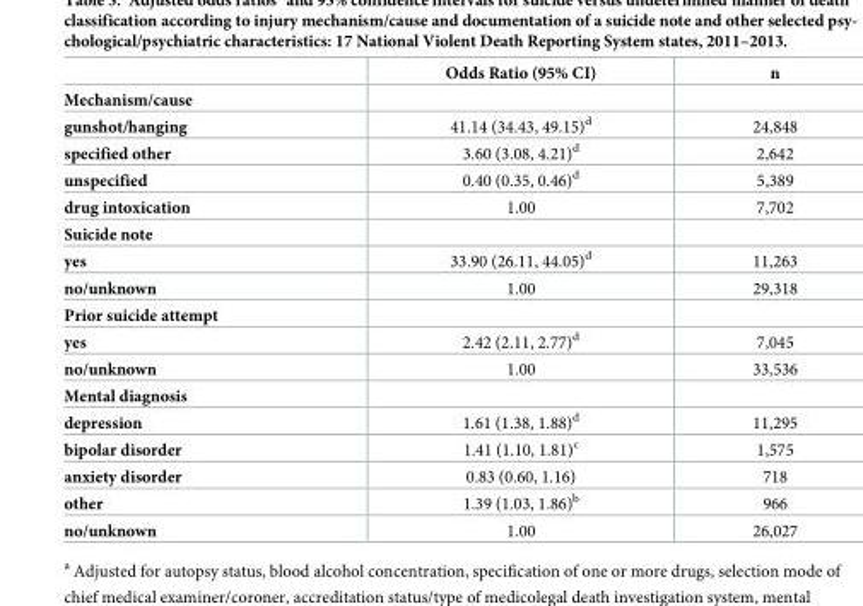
<table><thead><tr><td></td><td>Odds Ratio (95% CI)</td><td>n</td></tr></thead><tbody><tr><td colspan="3">Mechanism/cause</td></tr><tr><td>gunshot/hanging</td><td>41.14 (34.43, 49.15)<sup>d</sup></td><td>24,848</td></tr><tr><td>specified other</td><td>3.60 (3.08, 4.21)<sup>d</sup></td><td>2,642</td></tr><tr><td>unspecified</td><td>0.40 (0.35, 0.46)<sup>d</sup></td><td>5,389</td></tr><tr><td>drug intoxication</td><td>1.00</td><td>7,702</td></tr><tr><td colspan="3">Suicide note</td></tr><tr><td>yes</td><td>33.90 (26.11, 44.05)<sup>d</sup></td><td>11,263</td></tr><tr><td>no/unknown</td><td>1.00</td><td>29,318</td></tr><tr><td colspan="3">Prior suicide attempt</td></tr><tr><td>yes</td><td>2.42 (2.11, 2.77)<sup>d</sup></td><td>7,045</td></tr><tr><td>no/unknown</td><td>1.00</td><td>33,536</td></tr><tr><td colspan="3">Mental diagnosis</td></tr><tr><td>depression</td><td>1.61 (1.38, 1.88)<sup>d</sup></td><td>11,295</td></tr><tr><td>bipolar disorder</td><td>1.41 (1.10, 1.81)<sup>c</sup></td><td>1,575</td></tr><tr><td>anxiety disorder</td><td>0.83 (0.60, 1.16)</td><td>718</td></tr><tr><td>other</td><td>1.39 (1.03, 1.86)<sup>b</sup></td><td>966</td></tr><tr><td>no/unknown</td><td>1.00</td><td>26,027</td></tr></tbody></table>